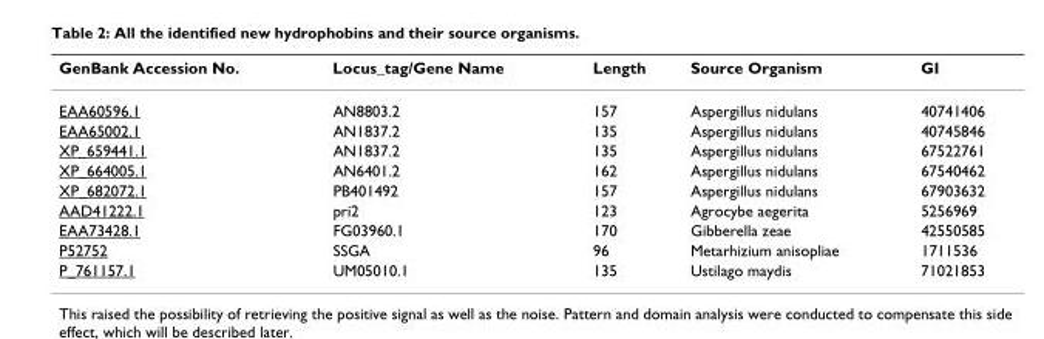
<table><thead><tr><td>GenBank Accession No.</td><td>Locus_tag/Gene Name</td><td>Length</td><td>Source Organism</td><td>GI</td></tr></thead><tbody><tr><td>EAA60596.1</td><td>AN8803.2</td><td>157</td><td>Aspergillus nidulans</td><td>40741406</td></tr><tr><td>EAA65002.1</td><td>AN1837.2</td><td>135</td><td>Aspergillus nidulans</td><td>40745846</td></tr><tr><td>XP_659441.1</td><td>AN1837.2</td><td>135</td><td>Aspergillus nidulans</td><td>67522761</td></tr><tr><td>XP_664005.1</td><td>AN6401.2</td><td>162</td><td>Aspergillus nidulans</td><td>67540462</td></tr><tr><td>XP_682072.1</td><td>PB401492</td><td>157</td><td>Aspergillus nidulans</td><td>67903632</td></tr><tr><td>AAD41222.1</td><td>pri2</td><td>123</td><td>Agrocybe aegerita</td><td>5256969</td></tr><tr><td>EAA73428.1</td><td>FG03960.1</td><td>170</td><td>Gibberella zeae</td><td>42550585</td></tr><tr><td>P52752</td><td>SSGA</td><td>96</td><td>Metarhizium anisopliae</td><td>1711536</td></tr><tr><td>P_761157.1</td><td>UM05010.1</td><td>135</td><td>Ustilago maydis</td><td>71021853</td></tr></tbody></table>